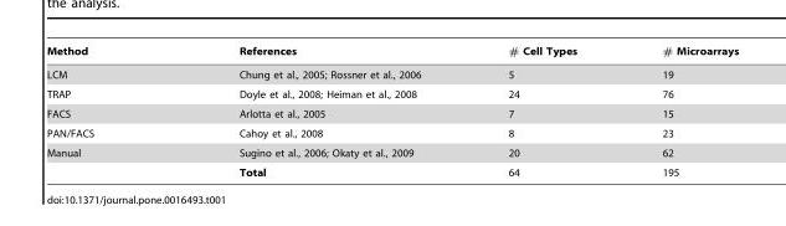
<table><thead><tr><td>Method</td><td>References</td><td># Cell Types</td><td># Microarrays</td></tr></thead><tbody><tr><td>LCM</td><td>Chung et al., 2005; Rossner et al., 2006</td><td>5</td><td>19</td></tr><tr><td>TRAP</td><td>Doyle et al., 2008; Heiman et al., 2008</td><td>24</td><td>76</td></tr><tr><td>FACS</td><td>Arlotta et al., 2005</td><td>7</td><td>15</td></tr><tr><td>PAN/FACS</td><td>Cahoy et al., 2008</td><td>8</td><td>23</td></tr><tr><td rowspan="2">Manual</td><td>Sugino et al., 2006; Okaty et al., 2009</td><td>20</td><td>62</td></tr><tr><td>Total</td><td>64</td><td>195</td></tr></tbody></table>